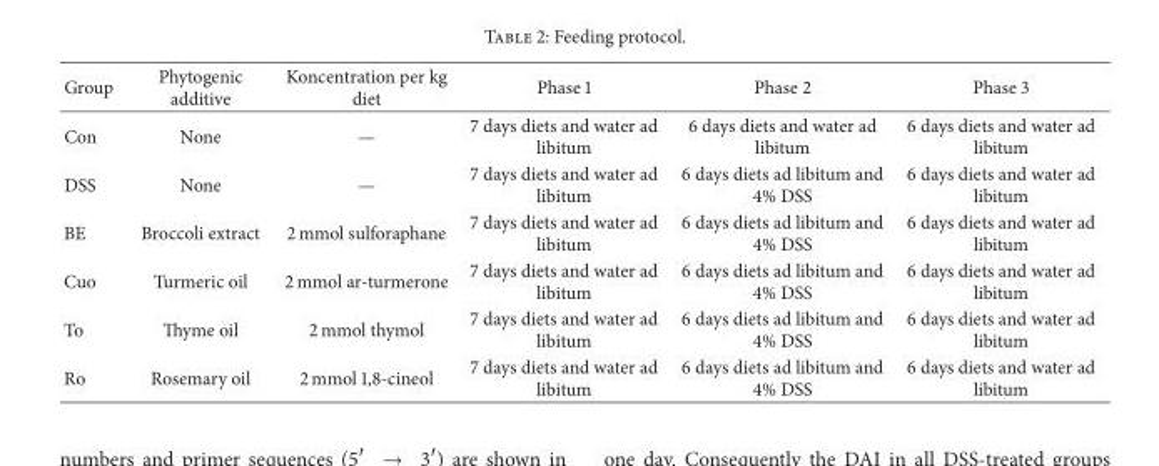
<table><thead><tr><td>Group</td><td>Phytogenic additive</td><td>Koncentration per kg diet</td><td>Phase 1</td><td>Phase 2</td><td>Phase 3</td></tr></thead><tbody><tr><td>Con</td><td>None</td><td>—</td><td>7 days diets and water ad libitum</td><td>6 days diets and water ad libitum</td><td>6 days diets and water ad libitum</td></tr><tr><td>DSS</td><td>None</td><td>—</td><td>7 days diets and water ad libitum</td><td>6 days diets ad libitum and 4% DSS</td><td>6 days diets and water ad libitum</td></tr><tr><td>BE</td><td>Broccoli extract</td><td>2 mmol sulforaphane</td><td>7 days diets and water ad libitum</td><td>6 days diets ad libitum and 4% DSS</td><td>6 days diets and water ad libitum</td></tr><tr><td>Cuo</td><td>Turmeric oil</td><td>2 mmol ar-turmerone</td><td>7 days diets and water ad libitum</td><td>6 days diets ad libitum and 4% DSS</td><td>6 days diets and water ad libitum</td></tr><tr><td>To</td><td>Thyme oil</td><td>2 mmol thymol</td><td>7 days diets and water ad libitum</td><td>6 days diets ad libitum and 4% DSS</td><td>6 days diets and water ad libitum</td></tr><tr><td>Ro</td><td>Rosemary oil</td><td>2 mmol 1,8-cineol</td><td>7 days diets and water ad libitum</td><td>6 days diets ad libitum and 4% DSS</td><td>6 days diets and water ad libitum</td></tr></tbody></table>